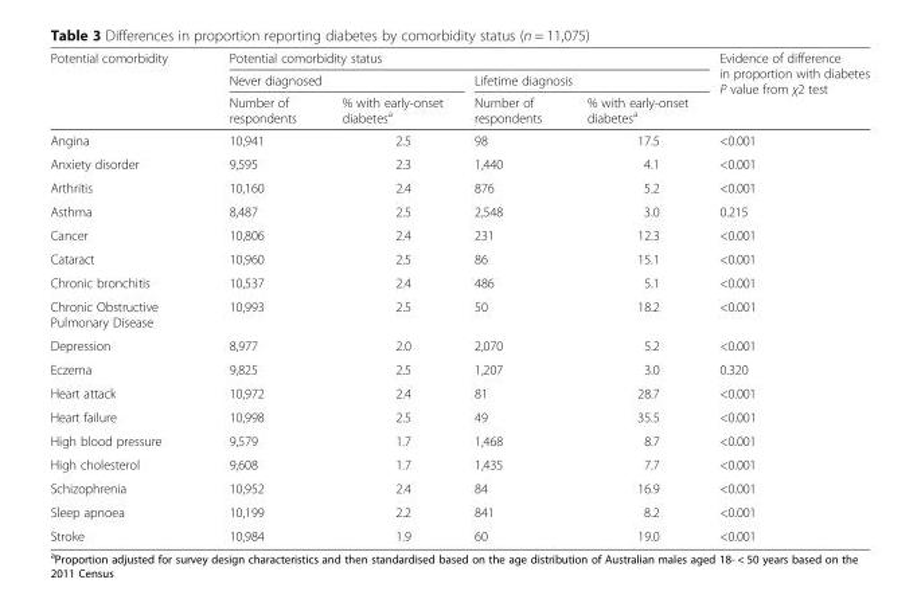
<table><thead><tr><td rowspan="3">Potential comorbidity</td><td colspan="4">Potential comorbidity status</td><td rowspan="3">Evidence of difference in proportion with diabetes P value from χ2 test</td></tr><tr><td colspan="2">Never diagnosed</td><td colspan="2">Lifetime diagnosis</td></tr><tr><td>Number of respondents</td><td>% with early-onset diabetes<sup>a</sup></td><td>Number of respondents</td><td>% with early-onset diabetes<sup>a</sup></td></tr></thead><tbody><tr><td>Angina</td><td>10,941</td><td>2.5</td><td>98</td><td>17.5</td><td>&lt;0.001</td></tr><tr><td>Anxiety disorder</td><td>9,595</td><td>2.3</td><td>1,440</td><td>4.1</td><td>&lt;0.001</td></tr><tr><td>Arthritis</td><td>10,160</td><td>2.4</td><td>876</td><td>5.2</td><td>&lt;0.001</td></tr><tr><td>Asthma</td><td>8,487</td><td>2.5</td><td>2,548</td><td>3.0</td><td>0.215</td></tr><tr><td>Cancer</td><td>10,806</td><td>2.4</td><td>231</td><td>12.3</td><td>&lt;0.001</td></tr><tr><td>Cataract</td><td>10,960</td><td>2.5</td><td>86</td><td>15.1</td><td>&lt;0.001</td></tr><tr><td>Chronic bronchitis</td><td>10,537</td><td>2.4</td><td>486</td><td>5.1</td><td>&lt;0.001</td></tr><tr><td>Chronic Obstructive Pulmonary Disease</td><td>10,993</td><td>2.5</td><td>50</td><td>18.2</td><td>&lt;0.001</td></tr><tr><td>Depression</td><td>8,977</td><td>2.0</td><td>2,070</td><td>5.2</td><td>&lt;0.001</td></tr><tr><td>Eczema</td><td>9,825</td><td>2.5</td><td>1,207</td><td>3.0</td><td>0.320</td></tr><tr><td>Heart attack</td><td>10,972</td><td>2.4</td><td>81</td><td>28.7</td><td>&lt;0.001</td></tr><tr><td>Heart failure</td><td>10,998</td><td>2.5</td><td>49</td><td>35.5</td><td>&lt;0.001</td></tr><tr><td>High blood pressure</td><td>9,579</td><td>1.7</td><td>1,468</td><td>8.7</td><td>&lt;0.001</td></tr><tr><td>High cholesterol</td><td>9,608</td><td>1.7</td><td>1,435</td><td>7.7</td><td>&lt;0.001</td></tr><tr><td>Schizophrenia</td><td>10,952</td><td>2.4</td><td>84</td><td>16.9</td><td>&lt;0.001</td></tr><tr><td>Sleep apnoea</td><td>10,199</td><td>2.2</td><td>841</td><td>8.2</td><td>&lt;0.001</td></tr><tr><td>Stroke</td><td>10,984</td><td>1.9</td><td>60</td><td>19.0</td><td>&lt;0.001</td></tr></tbody></table>